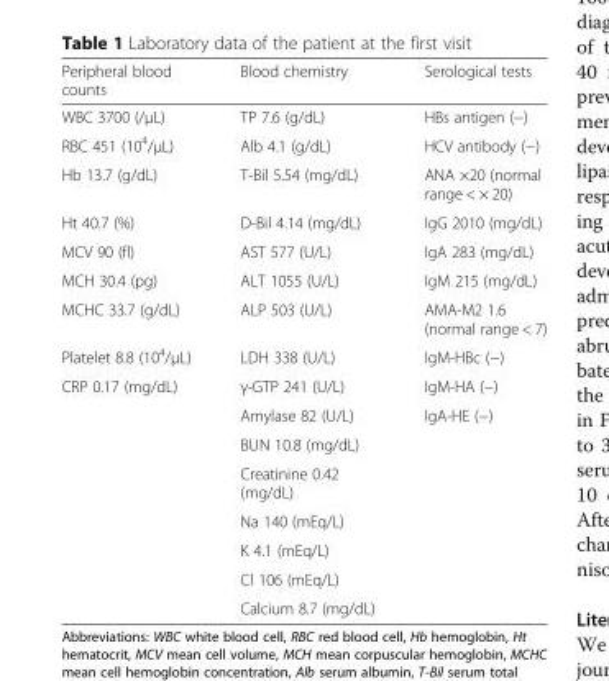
<table><thead><tr><td>Peripheral blood counts</td><td>Blood chemistry</td><td>Serological tests</td></tr></thead><tbody><tr><td>WBC 3700 (/μL)</td><td>TP 7.6 (g/dL)</td><td>HBs antigen (−)</td></tr><tr><td>RBC 451 (10<sup>4</sup>/μL)</td><td>Alb 4.1 (g/dL)</td><td>HCV antibody (−)</td></tr><tr><td>Hb 13.7 (g/dL)</td><td>T-Bil 5.54 (mg/dL)</td><td>ANA ×20 (normal range &lt; × 20)</td></tr><tr><td>Ht 40.7 (%)</td><td>D-Bil 4.14 (mg/dL)</td><td>IgG 2010 (mg/dL)</td></tr><tr><td>MCV 90 (fl)</td><td>AST 577 (U/L)</td><td>IgA 283 (mg/dL)</td></tr><tr><td>MCH 30.4 (pg)</td><td>ALT 1055 (U/L)</td><td>IgM 215 (mg/dL)</td></tr><tr><td>MCHC 33.7 (g/dL)</td><td>ALP 503 (U/L)</td><td>AMA-M2 1.6 (normal range &lt; 7)</td></tr><tr><td>Platelet 8.8 (10<sup>4</sup>/μL)</td><td>LDH 338 (U/L)</td><td>IgM-HBc (−)</td></tr><tr><td rowspan="8">CRP 0.17 (mg/dL)</td><td>γ-GTP 241 (U/L)</td><td>IgM-HA (−)</td></tr><tr><td>Amylase 82 (U/L)</td><td>IgA-HE (−)</td></tr><tr><td>BUN 10.8 (mg/dL)</td><td></td></tr><tr><td>Creatinine 0.42 (mg/dL)</td><td></td></tr><tr><td>Na 140 (mEq/L)</td><td></td></tr><tr><td>K 4.1 (mEq/L)</td><td></td></tr><tr><td>Cl 106 (mEq/L)</td><td></td></tr><tr><td>Calcium 8.7 (mg/dL)</td><td></td></tr></tbody></table>